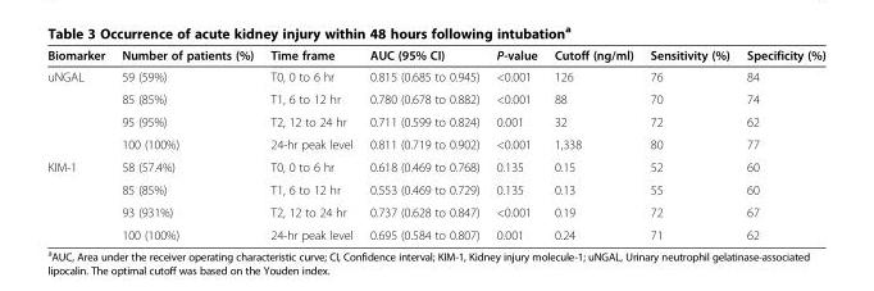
<table><thead><tr><td>Biomarker</td><td>Number of patients (%)</td><td>Time frame</td><td>AUC (95% CI)</td><td>P-value</td><td>Cutoff (ng/ml)</td><td>Sensitivity (%)</td><td>Specificity (%)</td></tr></thead><tbody><tr><td rowspan="4">uNGAL</td><td>59 (59%)</td><td>T0, 0 to 6 hr</td><td>0.815 (0.685 to 0.945)</td><td>&lt;0.001</td><td>126</td><td>76</td><td>84</td></tr><tr><td>85 (85%)</td><td>T1, 6 to 12 hr</td><td>0.780 (0.678 to 0.882)</td><td>&lt;0.001</td><td>88</td><td>70</td><td>74</td></tr><tr><td>95 (95%)</td><td>T2, 12 to 24 hr</td><td>0.711 (0.599 to 0.824)</td><td>0.001</td><td>32</td><td>72</td><td>62</td></tr><tr><td>100 (100%)</td><td>24-hr peak level</td><td>0.811 (0.719 to 0.902)</td><td>&lt;0.001</td><td>1,338</td><td>80</td><td>77</td></tr><tr><td rowspan="4">KIM-1</td><td>58 (57.4%)</td><td>T0, 0 to 6 hr</td><td>0.618 (0.469 to 0.768)</td><td>0.135</td><td>0.15</td><td>52</td><td>60</td></tr><tr><td>85 (85%)</td><td>T1, 6 to 12 hr</td><td>0.553 (0.469 to 0.729)</td><td>0.135</td><td>0.13</td><td>55</td><td>60</td></tr><tr><td>93 (931%)</td><td>T2, 12 to 24 hr</td><td>0.737 (0.628 to 0.847)</td><td>&lt;0.001</td><td>0.19</td><td>72</td><td>67</td></tr><tr><td>100 (100%)</td><td>24-hr peak level</td><td>0.695 (0.584 to 0.807)</td><td>0.001</td><td>0.24</td><td>71</td><td>62</td></tr></tbody></table>